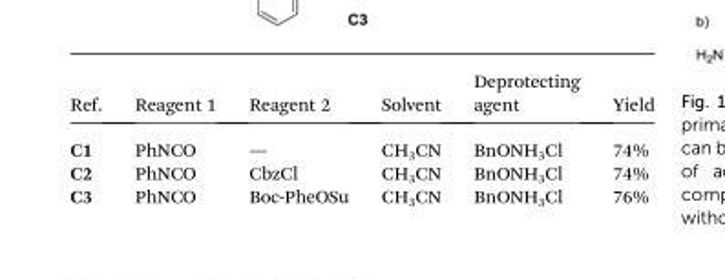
<table><thead><tr><td>Ref.</td><td>Reagent 1</td><td>Reagent 2</td><td>Solvent</td><td>Deprotecting agent</td><td>Yield</td></tr></thead><tbody><tr><td>C1</td><td>PhNCO</td><td>—</td><td>CH<sub>3</sub>CN</td><td>BnONH<sub>3</sub>Cl</td><td>74%</td></tr><tr><td>C2</td><td>PhNCO</td><td>CbzCl</td><td>CH<sub>3</sub>CN</td><td>BnONH<sub>3</sub>Cl</td><td>74%</td></tr><tr><td>C3</td><td>PhNCO</td><td>Boc-PheOSu</td><td>CH<sub>3</sub>CN</td><td>BnONH<sub>3</sub>Cl</td><td>76%</td></tr></tbody></table>